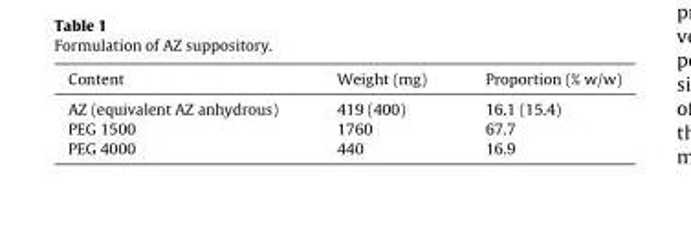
<table><thead><tr><td>Content</td><td>Weight (mg)</td><td>Proportion (% w/w)</td></tr></thead><tbody><tr><td>AZ (equivalent AZ anhydrous)</td><td>419 (400)</td><td>16.1 (15.4)</td></tr><tr><td>PEG 1500</td><td>1760</td><td>67.7</td></tr><tr><td>PEG 4000</td><td>440</td><td>16.9</td></tr></tbody></table>